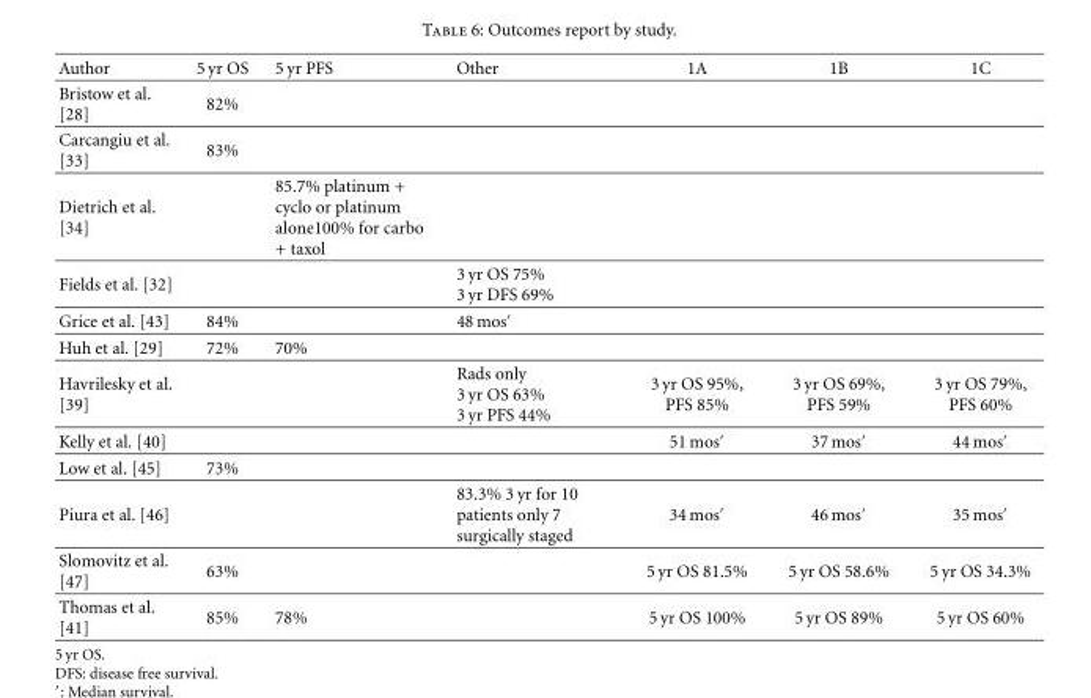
<table><thead><tr><td>Author</td><td>5 yr OS</td><td>5 yr PFS</td><td>Other</td><td>1A</td><td>1B</td><td>1C</td></tr></thead><tbody><tr><td>Bristow et al. [28]</td><td>82%</td><td></td><td></td><td></td><td></td><td></td></tr><tr><td>Carcangiu et al. [33]</td><td>83%</td><td></td><td></td><td></td><td></td><td></td></tr><tr><td>Dietrich et al. [34]</td><td></td><td>85.7% platinum + cyclo or platinum alone100% for carbo + taxol</td><td></td><td></td><td></td><td></td></tr><tr><td>Fields et al. [32]</td><td></td><td></td><td>3 yr OS 75% 3 yr DFS 69%</td><td></td><td></td><td></td></tr><tr><td>Grice et al. [43]</td><td>84%</td><td></td><td>48 mos′</td><td></td><td></td><td></td></tr><tr><td>Huh et al. [29]</td><td>72%</td><td>70%</td><td></td><td></td><td></td><td></td></tr><tr><td>Havrilesky et al. [39]</td><td></td><td></td><td>Rads only 3 yr OS 63% 3 yr PFS 44%</td><td>3 yr OS 95%, PFS 85%</td><td>3 yr OS 69%, PFS 59%</td><td>3 yr OS 79%, PFS 60%</td></tr><tr><td>Kelly et al. [40]</td><td></td><td></td><td></td><td>51 mos′</td><td>37 mos′</td><td>44 mos′</td></tr><tr><td>Low et al. [45]</td><td>73%</td><td></td><td></td><td></td><td></td><td></td></tr><tr><td>Piura et al. [46]</td><td></td><td></td><td>83.3% 3 yr for 10 patients only 7 surgically staged</td><td>34 mos′</td><td>46 mos′</td><td>35 mos′</td></tr><tr><td>Slomovitz et al. [47]</td><td>63%</td><td></td><td></td><td>5 yr OS 81.5%</td><td>5 yr OS 58.6%</td><td>5 yr OS 34.3%</td></tr><tr><td>Thomas et al. [41]</td><td>85%</td><td>78%</td><td></td><td>5 yr OS 100%</td><td>5 yr OS 89%</td><td>5 yr OS 60%</td></tr></tbody></table>